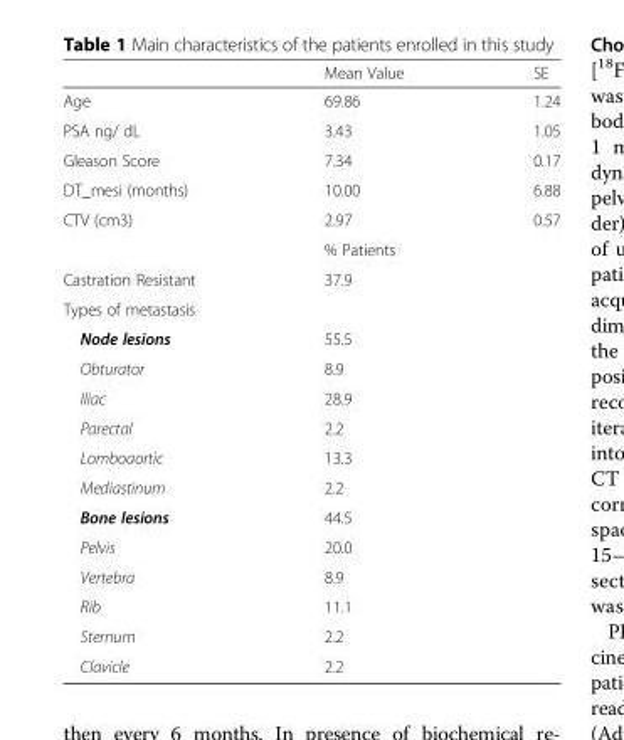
<table><thead><tr><td></td><td>Mean Value</td><td>SE</td></tr></thead><tbody><tr><td>Age</td><td>69.86</td><td>1.24</td></tr><tr><td>PSA ng/ dL</td><td>3.43</td><td>1.05</td></tr><tr><td>Gleason Score</td><td>7.34</td><td>0.17</td></tr><tr><td>DT_mesi (months)</td><td>10.00</td><td>6.88</td></tr><tr><td rowspan="2">CTV (cm3)</td><td>2.97</td><td>0.57</td></tr><tr><td colspan="2">% Patients</td></tr><tr><td>Castration Resistant</td><td colspan="2">37.9</td></tr><tr><td colspan="3">Types of metastasis</td></tr><tr><td>Node lesions</td><td colspan="2">55.5</td></tr><tr><td>Obturator</td><td colspan="2">8.9</td></tr><tr><td>Iliac</td><td colspan="2">28.9</td></tr><tr><td>Parectal</td><td colspan="2">2.2</td></tr><tr><td>Lomboaortic</td><td colspan="2">13.3</td></tr><tr><td>Mediastinum</td><td colspan="2">2.2</td></tr><tr><td>Bone lesions</td><td colspan="2">44.5</td></tr><tr><td>Pelvis</td><td colspan="2">20.0</td></tr><tr><td>Vertebra</td><td colspan="2">8.9</td></tr><tr><td>Rib</td><td colspan="2">11.1</td></tr><tr><td>Sternum</td><td colspan="2">2.2</td></tr><tr><td>Clavicle</td><td colspan="2">2.2</td></tr></tbody></table>